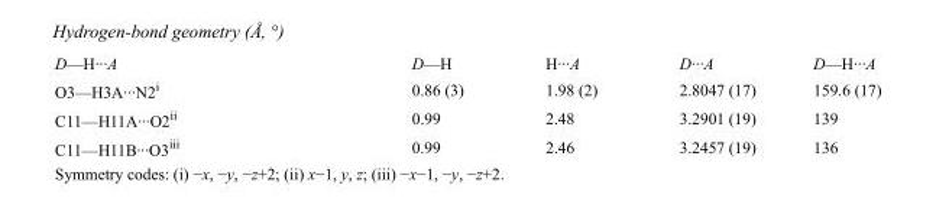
<table><tbody><tr><td>D—H···A</td><td>D—H</td><td>H···A</td><td>D···A</td><td>D—H···A</td></tr><tr><td>O3—H3A···N2<sup>i</sup></td><td>0.86 (3)</td><td>1.98 (2)</td><td>2.8047 (17)</td><td>159.6 (17)</td></tr><tr><td>C11—H11A···O2<sup>ii</sup></td><td>0.99</td><td>2.48</td><td>3.2901 (19)</td><td>139</td></tr><tr><td>C11—H11B···O3<sup>iii</sup></td><td>0.99</td><td>2.46</td><td>3.2457 (19)</td><td>136</td></tr></tbody></table>